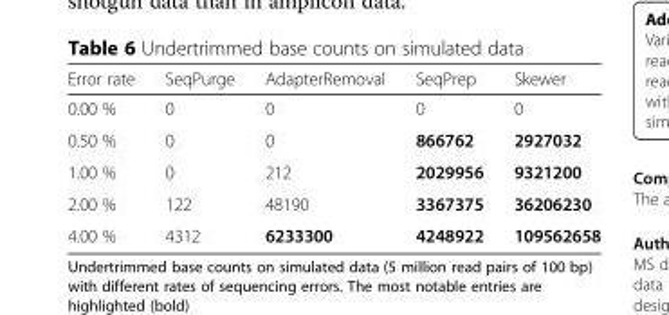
<table><thead><tr><td>Error rate</td><td>SeqPurge</td><td>AdapterRemoval</td><td>SeqPrep</td><td>Skewer</td></tr></thead><tbody><tr><td>0.00 %</td><td>0</td><td>0</td><td>0</td><td>0</td></tr><tr><td>0.50 %</td><td>0</td><td>0</td><td>866762</td><td>2927032</td></tr><tr><td>1.00 %</td><td>0</td><td>212</td><td>2029956</td><td>9321200</td></tr><tr><td>2.00 %</td><td>122</td><td>48190</td><td>3367375</td><td>36206230</td></tr><tr><td>4.00 %</td><td>4312</td><td>6233300</td><td>4248922</td><td>109562658</td></tr></tbody></table>